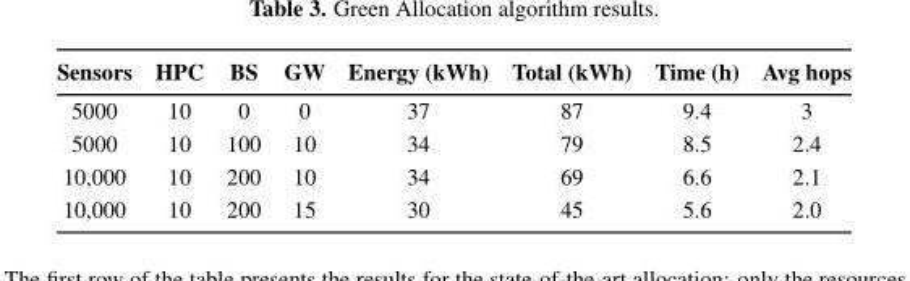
<table><thead><tr><td>Sensors</td><td>HPC</td><td>BS</td><td>GW</td><td>Energy (kWh)</td><td>Total (kWh)</td><td>Time (h)</td><td>Avg hops</td></tr></thead><tbody><tr><td>5000</td><td>10</td><td>0</td><td>0</td><td>37</td><td>87</td><td>9.4</td><td>3</td></tr><tr><td>5000</td><td>10</td><td>100</td><td>10</td><td>34</td><td>79</td><td>8.5</td><td>2.4</td></tr><tr><td>10,000</td><td>10</td><td>200</td><td>10</td><td>34</td><td>69</td><td>6.6</td><td>2.1</td></tr><tr><td>10,000</td><td>10</td><td>200</td><td>15</td><td>30</td><td>45</td><td>5.6</td><td>2.0</td></tr></tbody></table>